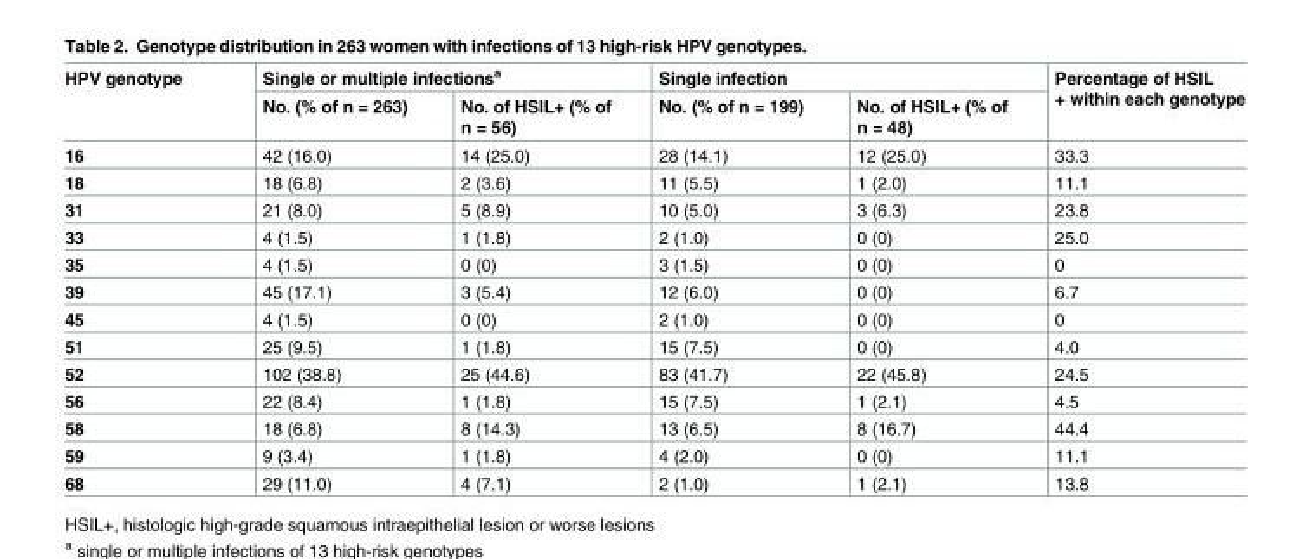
<table><thead><tr><td rowspan="2">HPV genotype</td><td colspan="2">Single or multiple infections<sup>a</sup></td><td colspan="2">Single infection</td><td rowspan="2">Percentage of HSIL + within each genotype</td></tr><tr><td>No. (% of n = 263)</td><td>No. of HSIL+ (% of n = 56)</td><td>No. (% of n = 199)</td><td>No. of HSIL+ (% of n = 48)</td></tr></thead><tbody><tr><td>16</td><td>42 (16.0)</td><td>14 (25.0)</td><td>28 (14.1)</td><td>12 (25.0)</td><td>33.3</td></tr><tr><td>18</td><td>18 (6.8)</td><td>2 (3.6)</td><td>11 (5.5)</td><td>1 (2.0)</td><td>11.1</td></tr><tr><td>31</td><td>21 (8.0)</td><td>5 (8.9)</td><td>10 (5.0)</td><td>3 (6.3)</td><td>23.8</td></tr><tr><td>33</td><td>4 (1.5)</td><td>1 (1.8)</td><td>2 (1.0)</td><td>0 (0)</td><td>25.0</td></tr><tr><td>35</td><td>4 (1.5)</td><td>0 (0)</td><td>3 (1.5)</td><td>0 (0)</td><td>0</td></tr><tr><td>39</td><td>45 (17.1)</td><td>3 (5.4)</td><td>12 (6.0)</td><td>0 (0)</td><td>6.7</td></tr><tr><td>45</td><td>4 (1.5)</td><td>0 (0)</td><td>2 (1.0)</td><td>0 (0)</td><td>0</td></tr><tr><td>51</td><td>25 (9.5)</td><td>1 (1.8)</td><td>15 (7.5)</td><td>0 (0)</td><td>4.0</td></tr><tr><td>52</td><td>102 (38.8)</td><td>25 (44.6)</td><td>83 (41.7)</td><td>22 (45.8)</td><td>24.5</td></tr><tr><td>56</td><td>22 (8.4)</td><td>1 (1.8)</td><td>15 (7.5)</td><td>1 (2.1)</td><td>4.5</td></tr><tr><td>58</td><td>18 (6.8)</td><td>8 (14.3)</td><td>13 (6.5)</td><td>8 (16.7)</td><td>44.4</td></tr><tr><td>59</td><td>9 (3.4)</td><td>1 (1.8)</td><td>4 (2.0)</td><td>0 (0)</td><td>11.1</td></tr><tr><td>68</td><td>29 (11.0)</td><td>4 (7.1)</td><td>2 (1.0)</td><td>1 (2.1)</td><td>13.8</td></tr></tbody></table>